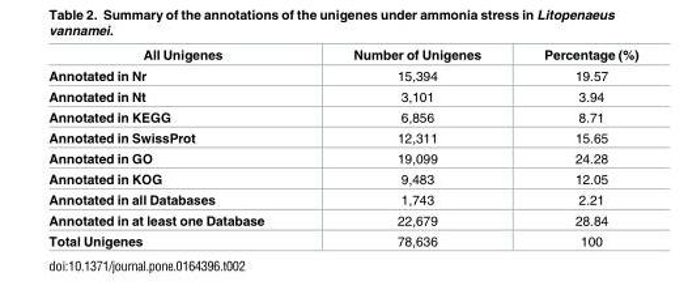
<table><thead><tr><td>All Unigenes</td><td>Number of Unigenes</td><td>Percentage (%)</td></tr></thead><tbody><tr><td>Annotated in Nr</td><td>15,394</td><td>19.57</td></tr><tr><td>Annotated in Nt</td><td>3,101</td><td>3.94</td></tr><tr><td>Annotated in KEGG</td><td>6,856</td><td>8.71</td></tr><tr><td>Annotated in SwissProt</td><td>12,311</td><td>15.65</td></tr><tr><td>Annotated in GO</td><td>19,099</td><td>24.28</td></tr><tr><td>Annotated in KOG</td><td>9,483</td><td>12.05</td></tr><tr><td>Annotated in all Databases</td><td>1,743</td><td>2.21</td></tr><tr><td>Annotated in at least one Database</td><td>22,679</td><td>28.84</td></tr><tr><td>Total Unigenes</td><td>78,636</td><td>100</td></tr></tbody></table>